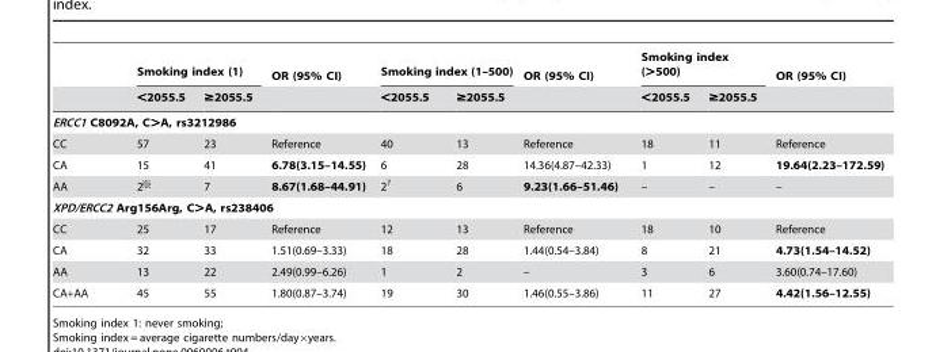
<table><thead><tr><td rowspan="2"></td><td colspan="2">Smoking index (1)</td><td rowspan="2">OR (95% CI)</td><td colspan="2">Smoking index (1–500)</td><td rowspan="2">OR (95% CI)</td><td colspan="2">Smoking index (&gt;500)</td><td rowspan="2">OR (95% CI)</td></tr><tr><td>&lt;2055.5</td><td>≥2055.5</td><td>&lt;2055.5</td><td>≥2055.5</td><td>&lt;2055.5</td><td>≥2055.5</td></tr></thead><tbody><tr><td colspan="10">ERCC1 C8092A, C&gt;A, rs3212986</td></tr><tr><td>CC</td><td>57</td><td>23</td><td>Reference</td><td>40</td><td>13</td><td>Reference</td><td>18</td><td>11</td><td>Reference</td></tr><tr><td>CA</td><td>15</td><td>41</td><td>6.78(3.15–14.55)</td><td>6</td><td>28</td><td>14.36(4.87–42.33)</td><td>1</td><td>12</td><td>19.64(2.23–172.59)</td></tr><tr><td>AA</td><td>2</td><td>7</td><td>8.67(1.68–44.91)</td><td>2<sup>?</sup></td><td>6</td><td>9.23(1.66–51.46)</td><td>–</td><td>–</td><td>–</td></tr><tr><td colspan="10">XPD/ERCC2 Arg156Arg, C&gt;A, rs238406</td></tr><tr><td>CC</td><td>25</td><td>17</td><td>Reference</td><td>12</td><td>13</td><td>Reference</td><td>18</td><td>10</td><td>Reference</td></tr><tr><td>CA</td><td>32</td><td>33</td><td>1.51(0.69–3.33)</td><td>18</td><td>28</td><td>1.44(0.54–3.84)</td><td>8</td><td>21</td><td>4.73(1.54–14.52)</td></tr><tr><td>AA</td><td>13</td><td>22</td><td>2.49(0.99–6.26)</td><td>1</td><td>2</td><td>–</td><td>3</td><td>6</td><td>3.60(0.74–17.60)</td></tr><tr><td>CA+AA</td><td>45</td><td>55</td><td>1.80(0.87–3.74)</td><td>19</td><td>30</td><td>1.46(0.55–3.86)</td><td>11</td><td>27</td><td>4.42(1.56–12.55)</td></tr></tbody></table>